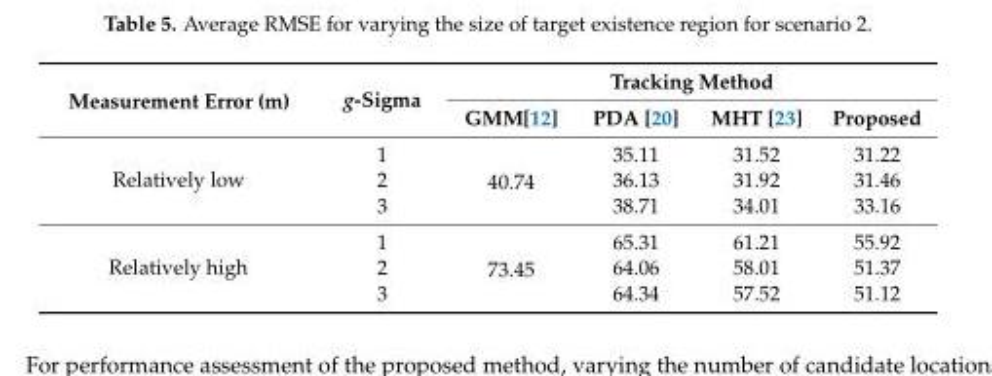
<table><thead><tr><td rowspan="2">Measurement Error (m)</td><td rowspan="2">g-Sigma</td><td colspan="4">Tracking Method</td></tr><tr><td>GMM[12]</td><td>PDA [20]</td><td>MHT [23]</td><td>Proposed</td></tr></thead><tbody><tr><td rowspan="3">Relatively low</td><td>1</td><td rowspan="3">40.74</td><td>35.11</td><td>31.52</td><td>31.22</td></tr><tr><td>2</td><td>36.13</td><td>31.92</td><td>31.46</td></tr><tr><td>3</td><td>38.71</td><td>34.01</td><td>33.16</td></tr><tr><td rowspan="3">Relatively high</td><td>1</td><td rowspan="3">73.45</td><td>65.31</td><td>61.21</td><td>55.92</td></tr><tr><td>2</td><td>64.06</td><td>58.01</td><td>51.37</td></tr><tr><td>3</td><td>64.34</td><td>57.52</td><td>51.12</td></tr></tbody></table>